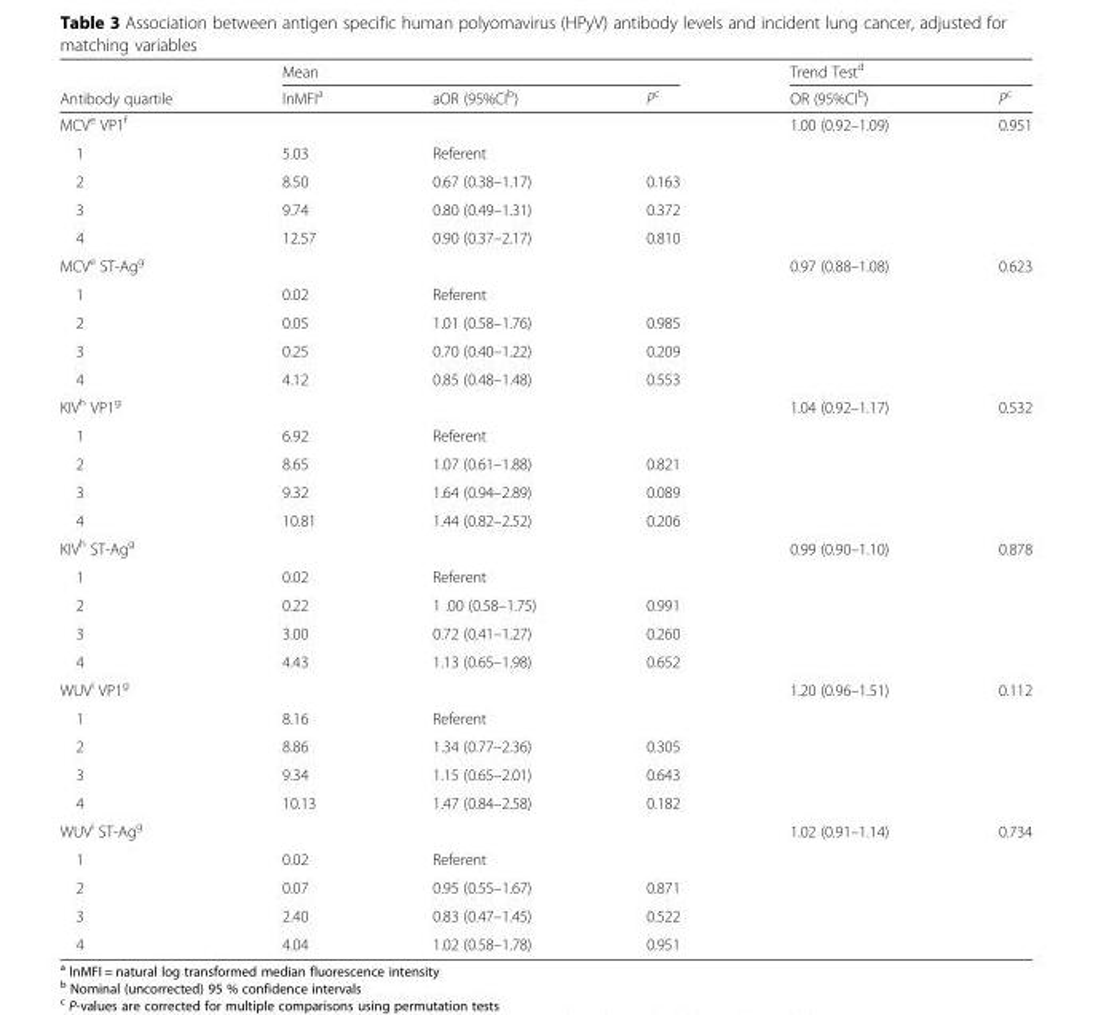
<table><thead><tr><td rowspan="2">Antibody quartile</td><td colspan="3">Mean</td><td colspan="2">Trend Test<sup>d</sup></td></tr><tr><td>lnMFI<sup>a</sup></td><td>aOR (95%CI<sup>b</sup>)</td><td>P<sup>c</sup></td><td>OR (95%CI<sup>b</sup>)</td><td>P<sup>c</sup></td></tr></thead><tbody><tr><td>MCV<sup>e</sup> VP1<sup>f</sup></td><td></td><td></td><td></td><td>1.00 (0.92–1.09)</td><td>0.951</td></tr><tr><td>1</td><td>5.03</td><td>Referent</td><td></td><td></td><td></td></tr><tr><td>2</td><td>8.50</td><td>0.67 (0.38–1.17)</td><td>0.163</td><td></td><td></td></tr><tr><td>3</td><td>9.74</td><td>0.80 (0.49–1.31)</td><td>0.372</td><td></td><td></td></tr><tr><td>4</td><td>12.57</td><td>0.90 (0.37–2.17)</td><td>0.810</td><td></td><td></td></tr><tr><td>MCV<sup>e</sup> ST-Ag<sup>g</sup></td><td></td><td></td><td></td><td>0.97 (0.88–1.08)</td><td>0.623</td></tr><tr><td>1</td><td>0.02</td><td>Referent</td><td></td><td></td><td></td></tr><tr><td>2</td><td>0.05</td><td>1.01 (0.58–1.76)</td><td>0.985</td><td></td><td></td></tr><tr><td>3</td><td>0.25</td><td>0.70 (0.40–1.22)</td><td>0.209</td><td></td><td></td></tr><tr><td>4</td><td>4.12</td><td>0.85 (0.48–1.48)</td><td>0.553</td><td></td><td></td></tr><tr><td>KIV<sup>h</sup> VP1<sup>g</sup></td><td></td><td></td><td></td><td>1.04 (0.92–1.17)</td><td>0.532</td></tr><tr><td>1</td><td>6.92</td><td>Referent</td><td></td><td></td><td></td></tr><tr><td>2</td><td>8.65</td><td>1.07 (0.61–1.88)</td><td>0.821</td><td></td><td></td></tr><tr><td>3</td><td>9.32</td><td>1.64 (0.94–2.89)</td><td>0.089</td><td></td><td></td></tr><tr><td>4</td><td>10.81</td><td>1.44 (0.82–2.52)</td><td>0.206</td><td></td><td></td></tr><tr><td>KIV<sup>h</sup> ST-Ag<sup>g</sup></td><td></td><td></td><td></td><td>0.99 (0.90–1.10)</td><td>0.878</td></tr><tr><td>1</td><td>0.02</td><td>Referent</td><td></td><td></td><td></td></tr><tr><td>2</td><td>0.22</td><td>1 .00 (0.58–1.75)</td><td>0.991</td><td></td><td></td></tr><tr><td>3</td><td>3.00</td><td>0.72 (0.41–1.27)</td><td>0.260</td><td></td><td></td></tr><tr><td>4</td><td>4.43</td><td>1.13 (0.65–1.98)</td><td>0.652</td><td></td><td></td></tr><tr><td>WUV<sup>i</sup> VP1<sup>g</sup></td><td></td><td></td><td></td><td>1.20 (0.96–1.51)</td><td>0.112</td></tr><tr><td>1</td><td>8.16</td><td>Referent</td><td></td><td></td><td></td></tr><tr><td>2</td><td>8.86</td><td>1.34 (0.77–2.36)</td><td>0.305</td><td></td><td></td></tr><tr><td>3</td><td>9.34</td><td>1.15 (0.65–2.01)</td><td>0.643</td><td></td><td></td></tr><tr><td>4</td><td>10.13</td><td>1.47 (0.84–2.58)</td><td>0.182</td><td></td><td></td></tr><tr><td>WUV<sup>i</sup> ST-Ag<sup>g</sup></td><td></td><td></td><td></td><td>1.02 (0.91–1.14)</td><td>0.734</td></tr><tr><td>1</td><td>0.02</td><td>Referent</td><td></td><td></td><td></td></tr><tr><td>2</td><td>0.07</td><td>0.95 (0.55–1.67)</td><td>0.871</td><td></td><td></td></tr><tr><td>3</td><td>2.40</td><td>0.83 (0.47–1.45)</td><td>0.522</td><td></td><td></td></tr><tr><td>4</td><td>4.04</td><td>1.02 (0.58–1.78)</td><td>0.951</td><td></td><td></td></tr></tbody></table>